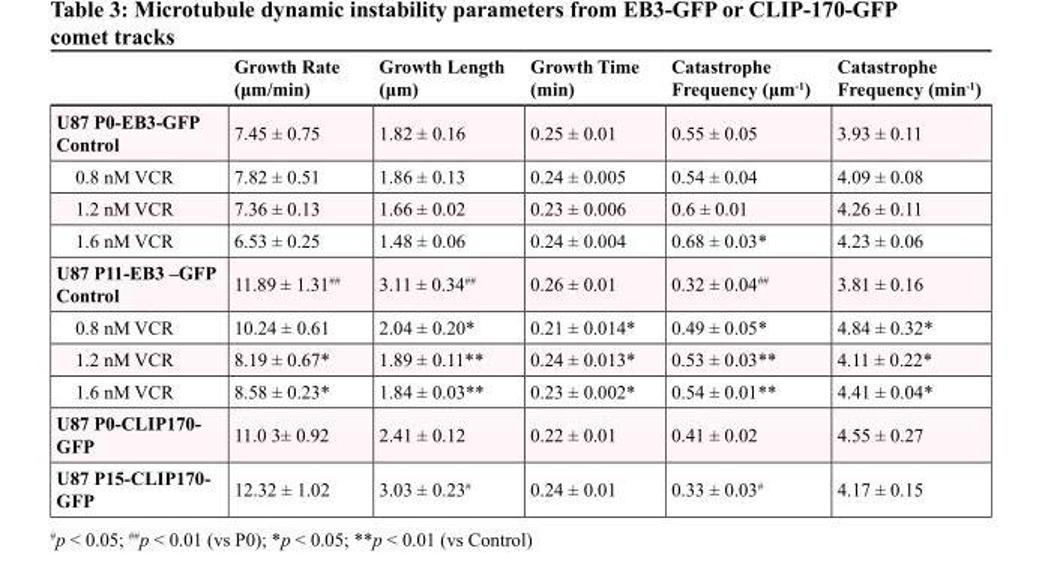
<table><thead><tr><td></td><td>Growth Rate (μm/min)</td><td>Growth Length (μm)</td><td>Growth Time (min)</td><td>Catastrophe Frequency (μm<sup>-1</sup>)</td><td>Catastrophe Frequency (min<sup>-1</sup>)</td></tr></thead><tbody><tr><td>U87 P0-EB3-GFP Control</td><td>7.45 ± 0.75</td><td>1.82 ± 0.16</td><td>0.25 ± 0.01</td><td>0.55 ± 0.05</td><td>3.93 ± 0.11</td></tr><tr><td>0.8 nM VCR</td><td>7.82 ± 0.51</td><td>1.86 ± 0.13</td><td>0.24 ± 0.005</td><td>0.54 ± 0.04</td><td>4.09 ± 0.08</td></tr><tr><td>1.2 nM VCR</td><td>7.36 ± 0.13</td><td>1.66 ± 0.02</td><td>0.23 ± 0.006</td><td>0.6 ± 0.01</td><td>4.26 ± 0.11</td></tr><tr><td>1.6 nM VCR</td><td>6.53 ± 0.25</td><td>1.48 ± 0.06</td><td>0.24 ± 0.004</td><td>0.68 ± 0.03*</td><td>4.23 ± 0.06</td></tr><tr><td>U87 P11-EB3 –GFP Control</td><td>11.89 ± 1.31<sup>##</sup></td><td>3.11 ± 0.34<sup>##</sup></td><td>0.26 ± 0.01</td><td>0.32 ± 0.04<sup>##</sup></td><td>3.81 ± 0.16</td></tr><tr><td>0.8 nM VCR</td><td>10.24 ± 0.61</td><td>2.04 ± 0.20*</td><td>0.21 ± 0.014*</td><td>0.49 ± 0.05*</td><td>4.84 ± 0.32*</td></tr><tr><td>1.2 nM VCR</td><td>8.19 ± 0.67*</td><td>1.89 ± 0.11**</td><td>0.24 ± 0.013*</td><td>0.53 ± 0.03**</td><td>4.11 ± 0.22*</td></tr><tr><td>1.6 nM VCR</td><td>8.58 ± 0.23*</td><td>1.84 ± 0.03**</td><td>0.23 ± 0.002*</td><td>0.54 ± 0.01**</td><td>4.41 ± 0.04*</td></tr><tr><td>U87 P0-CLIP170- GFP</td><td>11.0 3± 0.92</td><td>2.41 ± 0.12</td><td>0.22 ± 0.01</td><td>0.41 ± 0.02</td><td>4.55 ± 0.27</td></tr><tr><td>U87 P15-CLIP170- GFP</td><td>12.32 ± 1.02</td><td>3.03 ± 0.23<sup>#</sup></td><td>0.24 ± 0.01</td><td>0.33 ± 0.03<sup>#</sup></td><td>4.17 ± 0.15</td></tr></tbody></table>